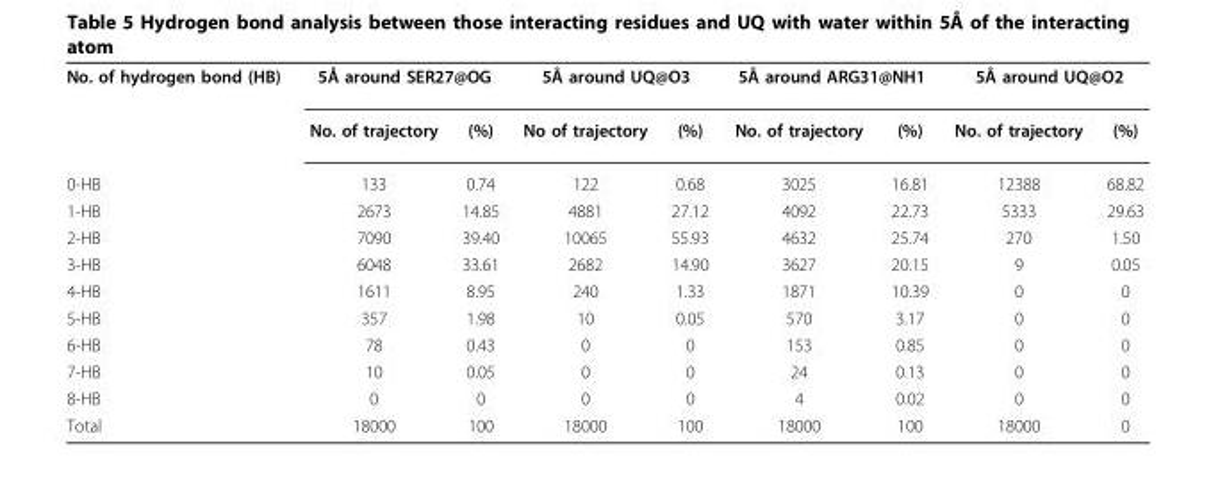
<table><tbody><tr><td rowspan="2">No. of hydrogen bond (HB)</td><td colspan="2">5Å around SER27@OG</td><td colspan="2">5Å around UQ@O3</td><td colspan="2">5Å around ARG31@NH1</td><td colspan="2">5Å around UQ@O2</td></tr><tr><td>No. of trajectory</td><td>(%)</td><td>No of trajectory</td><td>(%)</td><td>No. of trajectory</td><td>(%)</td><td>No. of trajectory</td><td>(%)</td></tr><tr><td>0-HB</td><td>133</td><td>0.74</td><td>122</td><td>0.68</td><td>3025</td><td>16.81</td><td>12388</td><td>68.82</td></tr><tr><td>1-HB</td><td>2673</td><td>14.85</td><td>4881</td><td>27.12</td><td>4092</td><td>22.73</td><td>5333</td><td>29.63</td></tr><tr><td>2-HB</td><td>7090</td><td>39.40</td><td>10065</td><td>55.93</td><td>4632</td><td>25.74</td><td>270</td><td>1.50</td></tr><tr><td>3-HB</td><td>6048</td><td>33.61</td><td>2682</td><td>14.90</td><td>3627</td><td>20.15</td><td>9</td><td>0.05</td></tr><tr><td>4-HB</td><td>1611</td><td>8.95</td><td>240</td><td>1.33</td><td>1871</td><td>10.39</td><td>0</td><td>0</td></tr><tr><td>5-HB</td><td>357</td><td>1.98</td><td>10</td><td>0.05</td><td>570</td><td>3.17</td><td>0</td><td>0</td></tr><tr><td>6-HB</td><td>78</td><td>0.43</td><td>0</td><td>0</td><td>153</td><td>0.85</td><td>0</td><td>0</td></tr><tr><td>7-HB</td><td>10</td><td>0.05</td><td>0</td><td>0</td><td>24</td><td>0.13</td><td>0</td><td>0</td></tr><tr><td>8-HB</td><td>0</td><td>0</td><td>0</td><td>0</td><td>4</td><td>0.02</td><td>0</td><td>0</td></tr><tr><td>Total</td><td>18000</td><td>100</td><td>18000</td><td>100</td><td>18000</td><td>100</td><td>18000</td><td>0</td></tr></tbody></table>